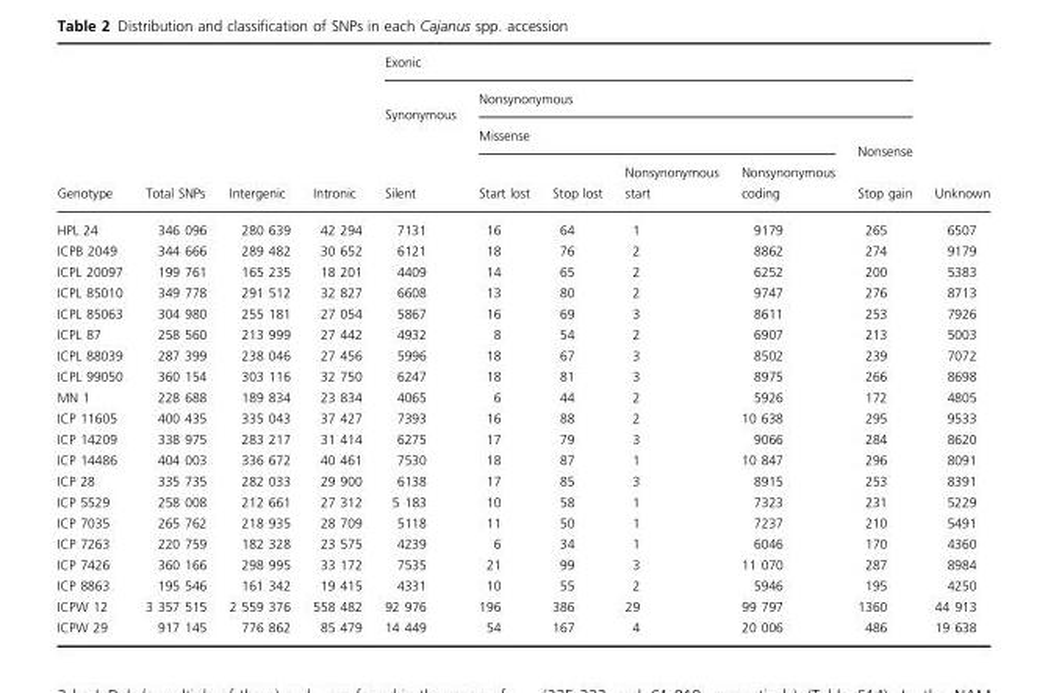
<table><thead><tr><td rowspan="4">Genotype</td><td rowspan="4">Total SNPs</td><td rowspan="4">Intergenic</td><td rowspan="4">Intronic</td><td colspan="6">Exonic</td><td rowspan="4">Unknown</td></tr><tr><td rowspan="3">Synonymous Silent</td><td colspan="5">Nonsynonymous</td></tr><tr><td colspan="4">Missense</td><td rowspan="2">Nonsense Stop gain</td></tr><tr><td>Start lost</td><td>Stop lost</td><td>Nonsynonymous start</td><td>Nonsynonymous coding</td></tr></thead><tbody><tr><td>HPL 24</td><td>346 096</td><td>280 639</td><td>42 294</td><td>7131</td><td>16</td><td>64</td><td>1</td><td>9179</td><td>265</td><td>6507</td></tr><tr><td>ICPB 2049</td><td>344 666</td><td>289 482</td><td>30 652</td><td>6121</td><td>18</td><td>76</td><td>2</td><td>8862</td><td>274</td><td>9179</td></tr><tr><td>ICPL 20097</td><td>199 761</td><td>165 235</td><td>18 201</td><td>4409</td><td>14</td><td>65</td><td>2</td><td>6252</td><td>200</td><td>5383</td></tr><tr><td>ICPL 85010</td><td>349 778</td><td>291 512</td><td>32 827</td><td>6608</td><td>13</td><td>80</td><td>2</td><td>9747</td><td>276</td><td>8713</td></tr><tr><td>ICPL 85063</td><td>304 980</td><td>255 181</td><td>27 054</td><td>5867</td><td>16</td><td>69</td><td>3</td><td>8611</td><td>253</td><td>7926</td></tr><tr><td>ICPL 87</td><td>258 560</td><td>213 999</td><td>27 442</td><td>4932</td><td>8</td><td>54</td><td>2</td><td>6907</td><td>213</td><td>5003</td></tr><tr><td>ICPL 88039</td><td>287 399</td><td>238 046</td><td>27 456</td><td>5996</td><td>18</td><td>67</td><td>3</td><td>8502</td><td>239</td><td>7072</td></tr><tr><td>ICPL 99050</td><td>360 154</td><td>303 116</td><td>32 750</td><td>6247</td><td>18</td><td>81</td><td>3</td><td>8975</td><td>266</td><td>8698</td></tr><tr><td>MN 1</td><td>228 688</td><td>189 834</td><td>23 834</td><td>4065</td><td>6</td><td>44</td><td>2</td><td>5926</td><td>172</td><td>4805</td></tr><tr><td>ICP 11605</td><td>400 435</td><td>335 043</td><td>37 427</td><td>7393</td><td>16</td><td>88</td><td>2</td><td>10 638</td><td>295</td><td>9533</td></tr><tr><td>ICP 14209</td><td>338 975</td><td>283 217</td><td>31 414</td><td>6275</td><td>17</td><td>79</td><td>3</td><td>9066</td><td>284</td><td>8620</td></tr><tr><td>ICP 14486</td><td>404 003</td><td>336 672</td><td>40 461</td><td>7530</td><td>18</td><td>87</td><td>1</td><td>10 847</td><td>296</td><td>8091</td></tr><tr><td>ICP 28</td><td>335 735</td><td>282 033</td><td>29 900</td><td>6138</td><td>17</td><td>85</td><td>3</td><td>8915</td><td>253</td><td>8391</td></tr><tr><td>ICP 5529</td><td>258 008</td><td>212 661</td><td>27 312</td><td>5 183</td><td>10</td><td>58</td><td>1</td><td>7323</td><td>231</td><td>5229</td></tr><tr><td>ICP 7035</td><td>265 762</td><td>218 935</td><td>28 709</td><td>5118</td><td>11</td><td>50</td><td>1</td><td>7237</td><td>210</td><td>5491</td></tr><tr><td>ICP 7263</td><td>220 759</td><td>182 328</td><td>23 575</td><td>4239</td><td>6</td><td>34</td><td>1</td><td>6046</td><td>170</td><td>4360</td></tr><tr><td>ICP 7426</td><td>360 166</td><td>298 995</td><td>33 172</td><td>7535</td><td>21</td><td>99</td><td>3</td><td>11 070</td><td>287</td><td>8984</td></tr><tr><td>ICP 8863</td><td>195 546</td><td>161 342</td><td>19 415</td><td>4331</td><td>10</td><td>55</td><td>2</td><td>5946</td><td>195</td><td>4250</td></tr><tr><td>ICPW 12</td><td>3 357 515</td><td>2 559 376</td><td>558 482</td><td>92 976</td><td>196</td><td>386</td><td>29</td><td>99 797</td><td>1360</td><td>44 913</td></tr><tr><td>ICPW 29</td><td>917 145</td><td>776 862</td><td>85 479</td><td>14 449</td><td>54</td><td>167</td><td>4</td><td>20 006</td><td>486</td><td>19 638</td></tr></tbody></table>